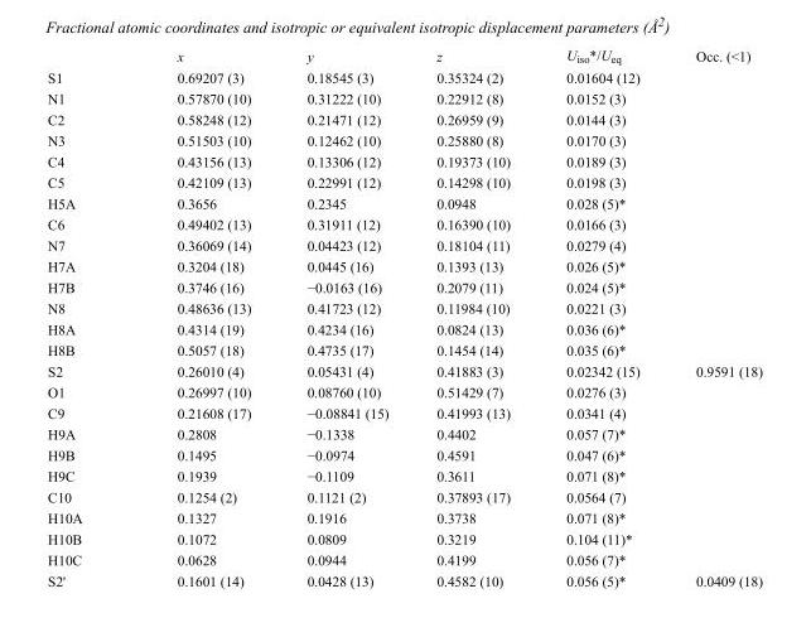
<table><thead><tr><td></td><td>x</td><td>y</td><td>z</td><td>U<sub>iso</sub>*/U<sub>eq</sub></td><td>Occ. (&lt;1)</td></tr></thead><tbody><tr><td>S1</td><td>0.69207 (3)</td><td>0.18545 (3)</td><td>0.35324 (2)</td><td>0.01604 (12)</td><td></td></tr><tr><td>N1</td><td>0.57870 (10)</td><td>0.31222 (10)</td><td>0.22912 (8)</td><td>0.0152 (3)</td><td></td></tr><tr><td>C2</td><td>0.58248 (12)</td><td>0.21471 (12)</td><td>0.26959 (9)</td><td>0.0144 (3)</td><td></td></tr><tr><td>N3</td><td>0.51503 (10)</td><td>0.12462 (10)</td><td>0.25880 (8)</td><td>0.0170 (3)</td><td></td></tr><tr><td>C4</td><td>0.43156 (13)</td><td>0.13306 (12)</td><td>0.19373 (10)</td><td>0.0189 (3)</td><td></td></tr><tr><td>C5</td><td>0.42109 (13)</td><td>0.22991 (12)</td><td>0.14298 (10)</td><td>0.0198 (3)</td><td></td></tr><tr><td>H5A</td><td>0.3656</td><td>0.2345</td><td>0.0948</td><td>0.028 (5)*</td><td></td></tr><tr><td>C6</td><td>0.49402 (13)</td><td>0.31911 (12)</td><td>0.16390 (10)</td><td>0.0166 (3)</td><td></td></tr><tr><td>N7</td><td>0.36069 (14)</td><td>0.04423 (12)</td><td>0.18104 (11)</td><td>0.0279 (4)</td><td></td></tr><tr><td>H7A</td><td>0.3204 (18)</td><td>0.0445 (16)</td><td>0.1393 (13)</td><td>0.026 (5)*</td><td></td></tr><tr><td>H7B</td><td>0.3746 (16)</td><td>−0.0163 (16)</td><td>0.2079 (11)</td><td>0.024 (5)*</td><td></td></tr><tr><td>N8</td><td>0.48636 (13)</td><td>0.41723 (12)</td><td>0.11984 (10)</td><td>0.0221 (3)</td><td></td></tr><tr><td>H8A</td><td>0.4314 (19)</td><td>0.4234 (16)</td><td>0.0824 (13)</td><td>0.036 (6)*</td><td></td></tr><tr><td>H8B</td><td>0.5057 (18)</td><td>0.4735 (17)</td><td>0.1454 (14)</td><td>0.035 (6)*</td><td></td></tr><tr><td>S2</td><td>0.26010 (4)</td><td>0.05431 (4)</td><td>0.41883 (3)</td><td>0.02342 (15)</td><td>0.9591 (18)</td></tr><tr><td>O1</td><td>0.26997 (10)</td><td>0.08760 (10)</td><td>0.51429 (7)</td><td>0.0276 (3)</td><td></td></tr><tr><td>C9</td><td>0.21608 (17)</td><td>−0.08841 (15)</td><td>0.41993 (13)</td><td>0.0341 (4)</td><td></td></tr><tr><td>H9A</td><td>0.2808</td><td>−0.1338</td><td>0.4402</td><td>0.057 (7)*</td><td></td></tr><tr><td>H9B</td><td>0.1495</td><td>−0.0974</td><td>0.4591</td><td>0.047 (6)*</td><td></td></tr><tr><td>H9C</td><td>0.1939</td><td>−0.1109</td><td>0.3611</td><td>0.071 (8)*</td><td></td></tr><tr><td>C10</td><td>0.1254 (2)</td><td>0.1121 (2)</td><td>0.37893 (17)</td><td>0.0564 (7)</td><td></td></tr><tr><td>H10A</td><td>0.1327</td><td>0.1916</td><td>0.3738</td><td>0.071 (8)*</td><td></td></tr><tr><td>H10B</td><td>0.1072</td><td>0.0809</td><td>0.3219</td><td>0.104 (11)*</td><td></td></tr><tr><td>H10C</td><td>0.0628</td><td>0.0944</td><td>0.4199</td><td>0.056 (7)*</td><td></td></tr><tr><td>S2&#x27;</td><td>0.1601 (14)</td><td>0.0428 (13)</td><td>0.4582 (10)</td><td>0.056 (5)*</td><td>0.0409 (18)</td></tr></tbody></table>